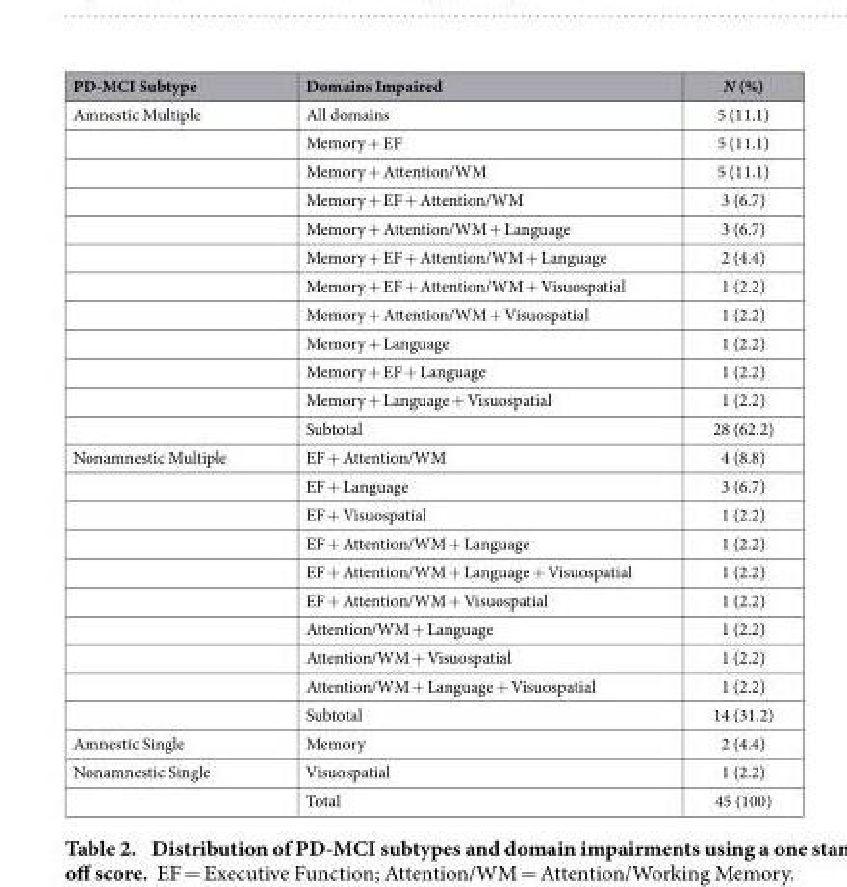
<table><thead><tr><td>PD-MCI Subtype</td><td>Domains Impaired</td><td>N (%)</td></tr></thead><tbody><tr><td rowspan="12">Amnestic Multiple</td><td>All domains</td><td>5 (11.1)</td></tr><tr><td>Memory + EF</td><td>5 (11.1)</td></tr><tr><td>Memory + Attention/WM</td><td>5 (11.1)</td></tr><tr><td>Memory + EF + Attention/WM</td><td>3 (6.7)</td></tr><tr><td>Memory + Attention/WM + Language</td><td>3 (6.7)</td></tr><tr><td>Memory + EF + Attention/WM + Language</td><td>2 (4.4)</td></tr><tr><td>Memory + EF + Attention/WM + Visuospatial</td><td>1 (2.2)</td></tr><tr><td>Memory + Attention/WM + Visuospatial</td><td>1 (2.2)</td></tr><tr><td>Memory + Language</td><td>1 (2.2)</td></tr><tr><td>Memory + EF + Language</td><td>1 (2.2)</td></tr><tr><td>Memory + Language + Visuospatial</td><td>1 (2.2)</td></tr><tr><td>Subtotal</td><td>28 (62.2)</td></tr><tr><td rowspan="10">Nonamnestic Multiple</td><td>EF + Attention/WM</td><td>4 (8.8)</td></tr><tr><td>EF + Language</td><td>3 (6.7)</td></tr><tr><td>EF + Visuospatial</td><td>1 (2.2)</td></tr><tr><td>EF + Attention/WM + Language</td><td>1 (2.2)</td></tr><tr><td>EF + Attention/WM + Language + Visuospatial</td><td>1 (2.2)</td></tr><tr><td>EF + Attention/WM + Visuospatial</td><td>1 (2.2)</td></tr><tr><td>Attention/WM + Language</td><td>1 (2.2)</td></tr><tr><td>Attention/WM + Visuospatial</td><td>1 (2.2)</td></tr><tr><td>Attention/WM + Language + Visuospatial</td><td>1 (2.2)</td></tr><tr><td>Subtotal</td><td>14 (31.2)</td></tr><tr><td>Amnestic Single</td><td>Memory</td><td>2 (4.4)</td></tr><tr><td rowspan="2">Nonamnestic Single</td><td>Visuospatial</td><td>1 (2.2)</td></tr><tr><td>Total</td><td>45 (100)</td></tr></tbody></table>